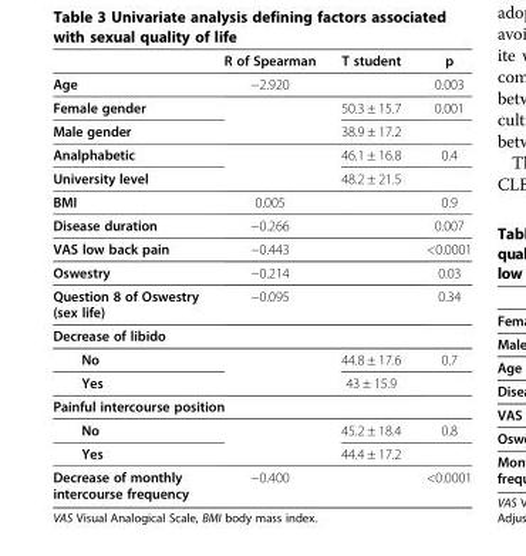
<table><thead><tr><td></td><td>R of Spearman</td><td>T student</td><td>p</td></tr></thead><tbody><tr><td>Age</td><td>−2.920</td><td></td><td>0.003</td></tr><tr><td>Female gender</td><td rowspan="2"></td><td>50.3 ± 15.7</td><td>0.001</td></tr><tr><td>Male gender</td><td>38.9 ± 17.2</td><td></td></tr><tr><td>Analphabetic</td><td rowspan="2"></td><td>46.1 ± 16.8</td><td>0.4</td></tr><tr><td>University level</td><td>48.2 ± 21.5</td><td></td></tr><tr><td>BMI</td><td>0.005</td><td></td><td>0.9</td></tr><tr><td>Disease duration</td><td>−0.266</td><td></td><td>0.007</td></tr><tr><td>VAS low back pain</td><td>−0.443</td><td></td><td>&lt;0.0001</td></tr><tr><td>Oswestry</td><td>−0.214</td><td></td><td>0.03</td></tr><tr><td>Question 8 of Oswestry (sex life)</td><td>−0.095</td><td></td><td>0.34</td></tr><tr><td colspan="4">Decrease of libido</td></tr><tr><td>No</td><td rowspan="2"></td><td>44.8 ± 17.6</td><td>0.7</td></tr><tr><td>Yes</td><td>43 ± 15.9</td><td></td></tr><tr><td colspan="4">Painful intercourse position</td></tr><tr><td>No</td><td rowspan="2"></td><td>45.2 ± 18.4</td><td>0.8</td></tr><tr><td>Yes</td><td>44.4 ± 17.2</td><td></td></tr><tr><td>Decrease of monthly intercourse frequency</td><td>−0.400</td><td></td><td>&lt;0.0001</td></tr></tbody></table>